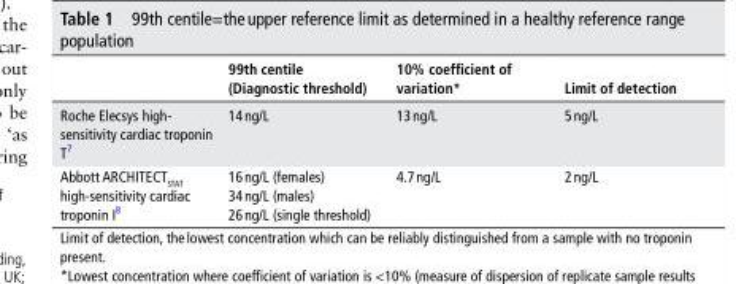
<table><thead><tr><td></td><td>99th centile (Diagnostic threshold)</td><td>10% coefficient of variation*</td><td>Limit of detection</td></tr></thead><tbody><tr><td>Roche Elecsys high- sensitivity cardiac troponin T<sup>7</sup></td><td>14 ng/L</td><td>13 ng/L</td><td>5 ng/L</td></tr><tr><td>Abbott ARCHITECT<sub>STAT</sub> high-sensitivity cardiac troponin I<sup>8</sup></td><td>16 ng/L (females) 34 ng/L (males) 26 ng/L (single threshold)</td><td>4.7 ng/L</td><td>2 ng/L</td></tr></tbody></table>